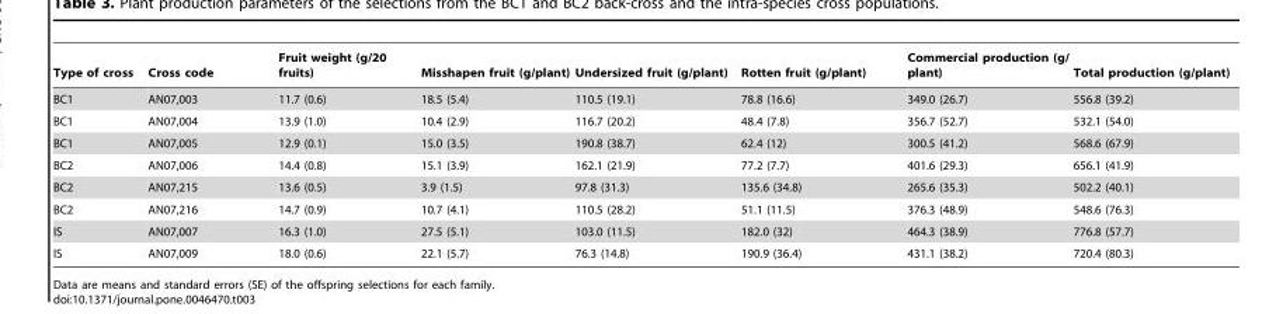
<table><thead><tr><td>Type of cross</td><td>Cross code</td><td>Fruit weight (g/20 fruits)</td><td>Misshapen fruit (g/plant)</td><td>Undersized fruit (g/plant)</td><td>Rotten fruit (g/plant)</td><td>Commercial production (g/ plant)</td><td>Total production (g/plant)</td></tr></thead><tbody><tr><td>BC1</td><td>AN07,003</td><td>11.7 (0.6)</td><td>18.5 (5.4)</td><td>110.5 (19.1)</td><td>78.8 (16.6)</td><td>349.0 (26.7)</td><td>556.8 (39.2)</td></tr><tr><td>BC1</td><td>AN07,004</td><td>13.9 (1.0)</td><td>10.4 (2.9)</td><td>116.7 (20.2)</td><td>48.4 (7.8)</td><td>356.7 (52.7)</td><td>532.1 (54.0)</td></tr><tr><td>BC1</td><td>AN07,005</td><td>12.9 (0.1)</td><td>15.0 (3.5)</td><td>190.8 (38.7)</td><td>62.4 (12)</td><td>300.5 (41.2)</td><td>568.6 (67.9)</td></tr><tr><td>BC2</td><td>AN07,006</td><td>14.4 (0.8)</td><td>15.1 (3.9)</td><td>162.1 (21.9)</td><td>77.2 (7.7)</td><td>401.6 (29.3)</td><td>656.1 (41.9)</td></tr><tr><td>BC2</td><td>AN07,215</td><td>13.6 (0.5)</td><td>3.9 (1.5)</td><td>97.8 (31.3)</td><td>135.6 (34.8)</td><td>265.6 (35.3)</td><td>502.2 (40.1)</td></tr><tr><td>BC2</td><td>AN07,216</td><td>14.7 (0.9)</td><td>10.7 (4.1)</td><td>110.5 (28.2)</td><td>51.1 (11.5)</td><td>376.3 (48.9)</td><td>548.6 (76.3)</td></tr><tr><td>IS</td><td>AN07,007</td><td>16.3 (1.0)</td><td>27.5 (5.1)</td><td>103.0 (11.5)</td><td>182.0 (32)</td><td>464.3 (38.9)</td><td>776.8 (57.7)</td></tr><tr><td>IS</td><td>AN07,009</td><td>18.0 (0.6)</td><td>22.1 (5.7)</td><td>76.3 (14.8)</td><td>190.9 (36.4)</td><td>431.1 (38.2)</td><td>720.4 (80.3)</td></tr></tbody></table>